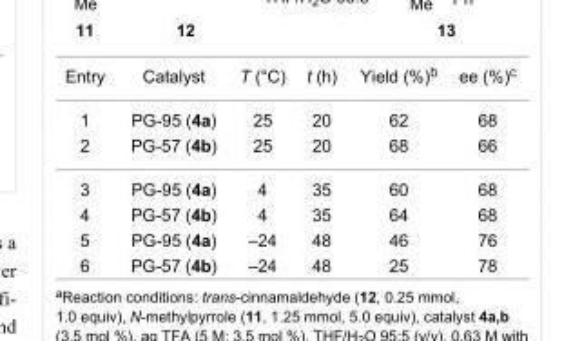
<table><tbody><tr><td>Entry</td><td>Catalyst</td><td>T (°C)</td><td>t (h)</td><td>Yield (%)<sup>b</sup></td><td>ee (%)<sup>c</sup></td></tr><tr><td>1</td><td>PG-95 (4a)</td><td>25</td><td>20</td><td>62</td><td>68</td></tr><tr><td>2</td><td>PG-57 (4b)</td><td>25</td><td>20</td><td>68</td><td>66</td></tr><tr><td>3</td><td>PG-95 (4a)</td><td>4</td><td>35</td><td>60</td><td>68</td></tr><tr><td>4</td><td>PG-57 (4b)</td><td>4</td><td>35</td><td>64</td><td>68</td></tr><tr><td>5</td><td>PG-95 (4a)</td><td>–24</td><td>48</td><td>46</td><td>76</td></tr><tr><td>6</td><td>PG-57 (4b)</td><td>–24</td><td>48</td><td>25</td><td>78</td></tr></tbody></table>